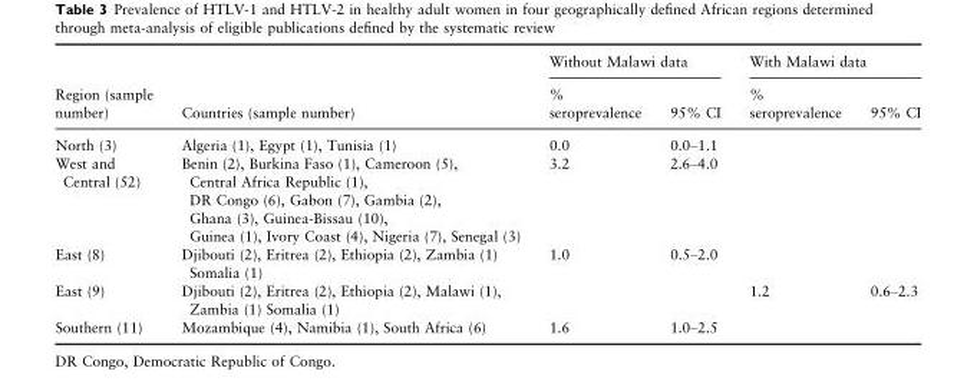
<table><thead><tr><td rowspan="2">Region (sample number)</td><td rowspan="2">Countries (sample number)</td><td colspan="2">Without Malawi data</td><td colspan="2">With Malawi data</td></tr><tr><td>% seroprevalence</td><td>95% CI</td><td>% seroprevalence</td><td>95% CI</td></tr></thead><tbody><tr><td>North (3)</td><td>Algeria (1), Egypt (1), Tunisia (1)</td><td>0.0</td><td>0.0–1.1</td><td></td><td></td></tr><tr><td>West and Central (52)</td><td>Benin (2), Burkina Faso (1), Cameroon (5), Central Africa Republic (1), DR Congo (6), Gabon (7), Gambia (2), Ghana (3), Guinea-Bissau (10), Guinea (1), Ivory Coast (4), Nigeria (7), Senegal (3)</td><td>3.2</td><td>2.6–4.0</td><td></td><td></td></tr><tr><td>East (8)</td><td>Djibouti (2), Eritrea (2), Ethiopia (2), Zambia (1) Somalia (1)</td><td>1.0</td><td>0.5–2.0</td><td></td><td></td></tr><tr><td>East (9)</td><td>Djibouti (2), Eritrea (2), Ethiopia (2), Malawi (1), Zambia (1) Somalia (1)</td><td></td><td></td><td>1.2</td><td>0.6–2.3</td></tr><tr><td>Southern (11)</td><td>Mozambique (4), Namibia (1), South Africa (6)</td><td>1.6</td><td>1.0–2.5</td><td></td><td></td></tr></tbody></table>